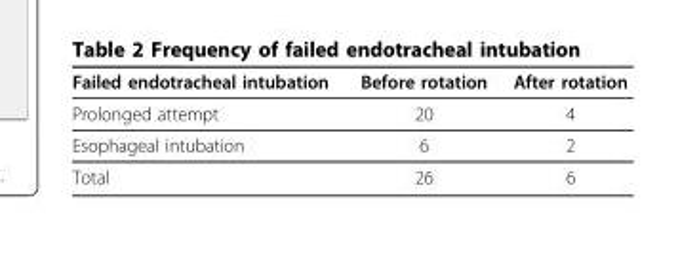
<table><thead><tr><td>Failed endotracheal intubation</td><td>Before rotation</td><td>After rotation</td></tr></thead><tbody><tr><td>Prolonged attempt</td><td>20</td><td>4</td></tr><tr><td>Esophageal intubation</td><td>6</td><td>2</td></tr><tr><td>Total</td><td>26</td><td>6</td></tr></tbody></table>